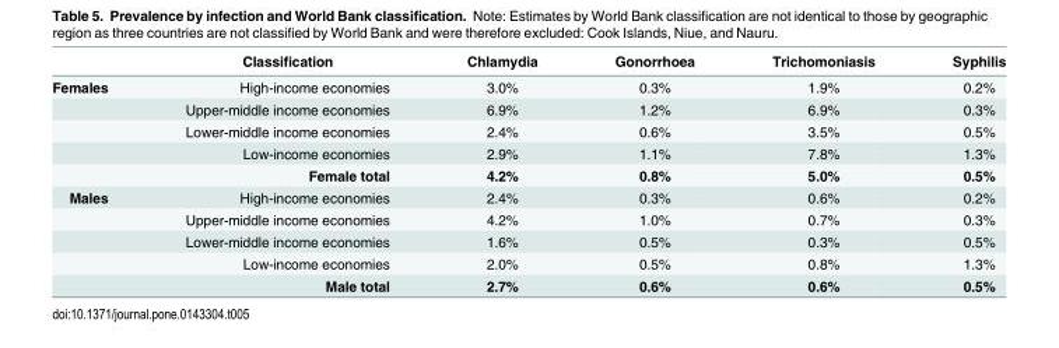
<table><thead><tr><td></td><td>Classification</td><td>Chlamydia</td><td>Gonorrhoea</td><td>Trichomoniasis</td><td>Syphilis</td></tr></thead><tbody><tr><td rowspan="5">Females</td><td>High-income economies</td><td>3.0%</td><td>0.3%</td><td>1.9%</td><td>0.2%</td></tr><tr><td>Upper-middle income economies</td><td>6.9%</td><td>1.2%</td><td>6.9%</td><td>0.3%</td></tr><tr><td>Lower-middle income economies</td><td>2.4%</td><td>0.6%</td><td>3.5%</td><td>0.5%</td></tr><tr><td>Low-income economies</td><td>2.9%</td><td>1.1%</td><td>7.8%</td><td>1.3%</td></tr><tr><td>Female total</td><td>4.2%</td><td>0.8%</td><td>5.0%</td><td>0.5%</td></tr><tr><td rowspan="5">Males</td><td>High-income economies</td><td>2.4%</td><td>0.3%</td><td>0.6%</td><td>0.2%</td></tr><tr><td>Upper-middle income economies</td><td>4.2%</td><td>1.0%</td><td>0.7%</td><td>0.3%</td></tr><tr><td>Lower-middle income economies</td><td>1.6%</td><td>0.5%</td><td>0.3%</td><td>0.5%</td></tr><tr><td>Low-income economies</td><td>2.0%</td><td>0.5%</td><td>0.8%</td><td>1.3%</td></tr><tr><td>Male total</td><td>2.7%</td><td>0.6%</td><td>0.6%</td><td>0.5%</td></tr></tbody></table>